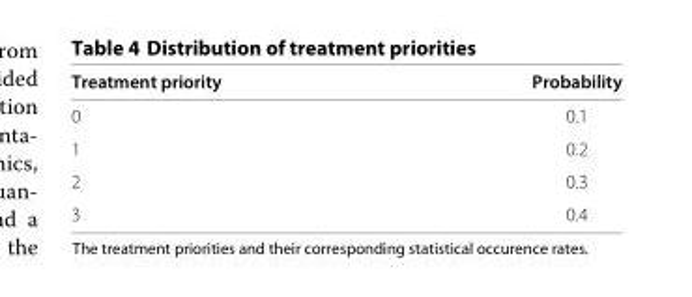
<table><thead><tr><td>Treatment priority</td><td>Probability</td></tr></thead><tbody><tr><td>0</td><td>0.1</td></tr><tr><td>1</td><td>0.2</td></tr><tr><td>2</td><td>0.3</td></tr><tr><td>3</td><td>0.4</td></tr></tbody></table>